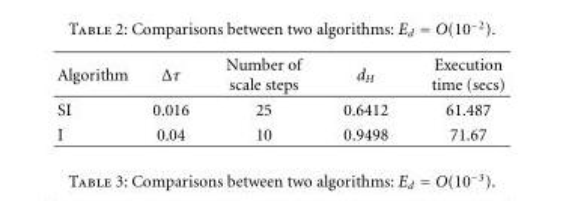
<table><thead><tr><td>Algorithm</td><td>Δτ</td><td>Number of scale steps</td><td>d<sub>H</sub></td><td>Execution time (secs)</td></tr></thead><tbody><tr><td>SI</td><td>0.016</td><td>25</td><td>0.6412</td><td>61.487</td></tr><tr><td>I</td><td>0.04</td><td>10</td><td>0.9498</td><td>71.67</td></tr></tbody></table>